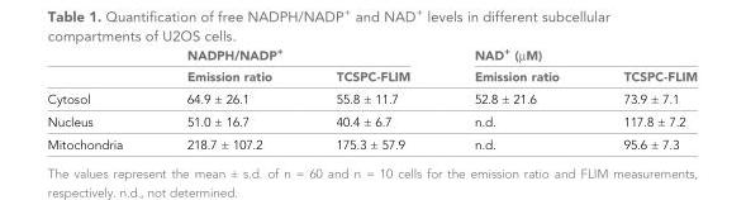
<table><thead><tr><td rowspan="2"></td><td colspan="2">NADPH/NADP<sup>+</sup></td><td colspan="2">NAD<sup>+</sup> (µM)</td></tr><tr><td>Emission ratio</td><td>TCSPC-FLIM</td><td>Emission ratio</td><td>TCSPC-FLIM</td></tr></thead><tbody><tr><td>Cytosol</td><td>64.9 ± 26.1</td><td>55.8 ± 11.7</td><td>52.8 ± 21.6</td><td>73.9 ± 7.1</td></tr><tr><td>Nucleus</td><td>51.0 ± 16.7</td><td>40.4 ± 6.7</td><td>n.d.</td><td>117.8 ± 7.2</td></tr><tr><td>Mitochondria</td><td>218.7 ± 107.2</td><td>175.3 ± 57.9</td><td>n.d.</td><td>95.6 ± 7.3</td></tr></tbody></table>